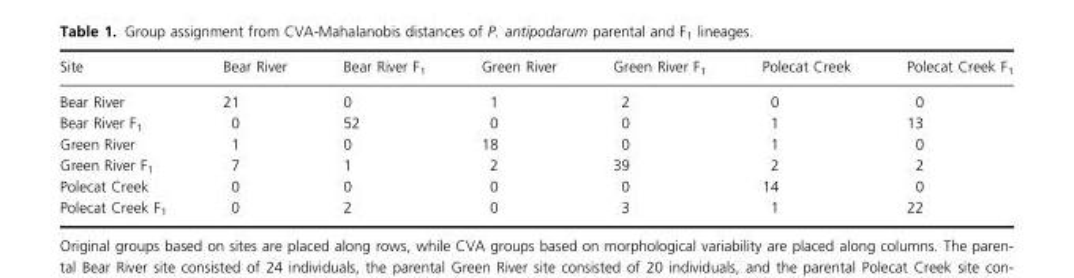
<table><thead><tr><td>Site</td><td>Bear River</td><td>Bear River F<sub>1</sub></td><td>Green River</td><td>Green River F<sub>1</sub></td><td>Polecat Creek</td><td>Polecat Creek F<sub>1</sub></td></tr></thead><tbody><tr><td>Bear River</td><td>21</td><td>0</td><td>1</td><td>2</td><td>0</td><td>0</td></tr><tr><td>Bear River F<sub>1</sub></td><td>0</td><td>52</td><td>0</td><td>0</td><td>1</td><td>13</td></tr><tr><td>Green River</td><td>1</td><td>0</td><td>18</td><td>0</td><td>1</td><td>0</td></tr><tr><td>Green River F<sub>1</sub></td><td>7</td><td>1</td><td>2</td><td>39</td><td>2</td><td>2</td></tr><tr><td>Polecat Creek</td><td>0</td><td>0</td><td>0</td><td>0</td><td>14</td><td>0</td></tr><tr><td>Polecat Creek F<sub>1</sub></td><td>0</td><td>2</td><td>0</td><td>3</td><td>1</td><td>22</td></tr></tbody></table>